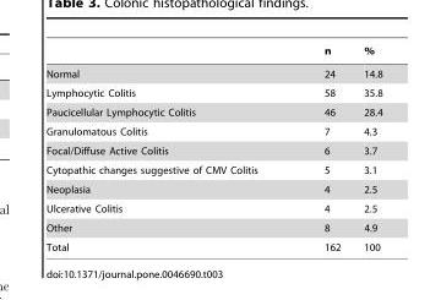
<table><thead><tr><td></td><td>n</td><td>%</td></tr></thead><tbody><tr><td>Normal</td><td>24</td><td>14.8</td></tr><tr><td>Lymphocytic Colitis</td><td>58</td><td>35.8</td></tr><tr><td>Paucicellular Lymphocytic Colitis</td><td>46</td><td>28.4</td></tr><tr><td>Granulomatous Colitis</td><td>7</td><td>4.3</td></tr><tr><td>Focal/Diffuse Active Colitis</td><td>6</td><td>3.7</td></tr><tr><td>Cytopathic changes suggestive of CMV Colitis</td><td>5</td><td>3.1</td></tr><tr><td>Neoplasia</td><td>4</td><td>2.5</td></tr><tr><td>Ulcerative Colitis</td><td>4</td><td>2.5</td></tr><tr><td>Other</td><td>8</td><td>4.9</td></tr><tr><td>Total</td><td>162</td><td>100</td></tr></tbody></table>